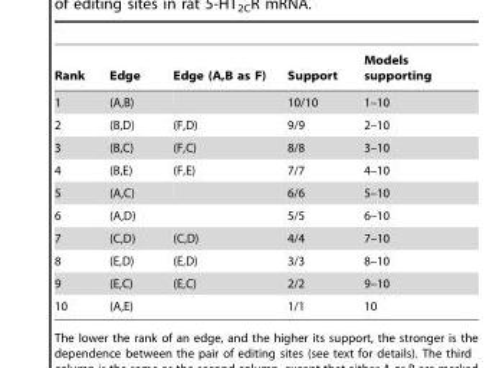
<table><thead><tr><td>Rank</td><td>Edge</td><td>Edge (A,B as F)</td><td>Support</td><td>Models supporting</td></tr></thead><tbody><tr><td>1</td><td>(A,B)</td><td></td><td>10/10</td><td>1–10</td></tr><tr><td>2</td><td>(B,D)</td><td>(F,D)</td><td>9/9</td><td>2–10</td></tr><tr><td>3</td><td>(B,C)</td><td>(F,C)</td><td>8/8</td><td>3–10</td></tr><tr><td>4</td><td>(B,E)</td><td>(F,E)</td><td>7/7</td><td>4–10</td></tr><tr><td>5</td><td>(A,C)</td><td></td><td>6/6</td><td>5–10</td></tr><tr><td>6</td><td>(A,D)</td><td></td><td>5/5</td><td>6–10</td></tr><tr><td>7</td><td>(C,D)</td><td>(C,D)</td><td>4/4</td><td>7–10</td></tr><tr><td>8</td><td>(E,D)</td><td>(E,D)</td><td>3/3</td><td>8–10</td></tr><tr><td>9</td><td>(E,C)</td><td>(E,C)</td><td>2/2</td><td>9–10</td></tr><tr><td>10</td><td>(A,E)</td><td></td><td>1/1</td><td>10</td></tr></tbody></table>